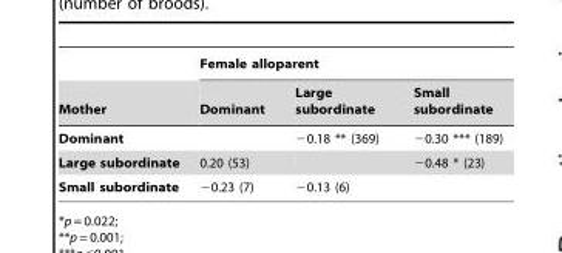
<table><thead><tr><td rowspan="2">Mother</td><td colspan="3">Female alloparent</td></tr><tr><td>Dominant</td><td>Large subordinate</td><td>Small subordinate</td></tr></thead><tbody><tr><td>Dominant</td><td></td><td>−0.18 ** (369)</td><td>−0.30 *** (189)</td></tr><tr><td>Large subordinate</td><td>0.20 (53)</td><td></td><td>−0.48 * (23)</td></tr><tr><td>Small subordinate</td><td>−0.23 (7)</td><td>−0.13 (6)</td><td></td></tr></tbody></table>